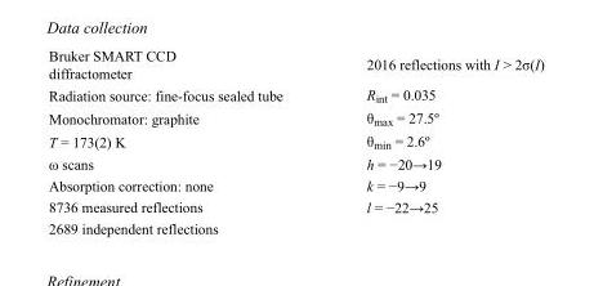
<table><tbody><tr><td>Bruker SMART CCD diffractometer</td><td>2016 reflections with I &gt; 2σ(I)</td></tr><tr><td>Radiation source: fine-focus sealed tube</td><td>R<sub>int</sub> = 0.035</td></tr><tr><td>Monochromator: graphite</td><td>θ<sub>max</sub> = 27.5º</td></tr><tr><td>T = 173(2) K</td><td>θ<sub>min</sub> = 2.6º</td></tr><tr><td>ω scans</td><td>h = −20→19</td></tr><tr><td>Absorption correction: none</td><td>k = −9→9</td></tr><tr><td>8736 measured reflections</td><td>l = −22→25</td></tr><tr><td>2689 independent reflections</td><td></td></tr></tbody></table>